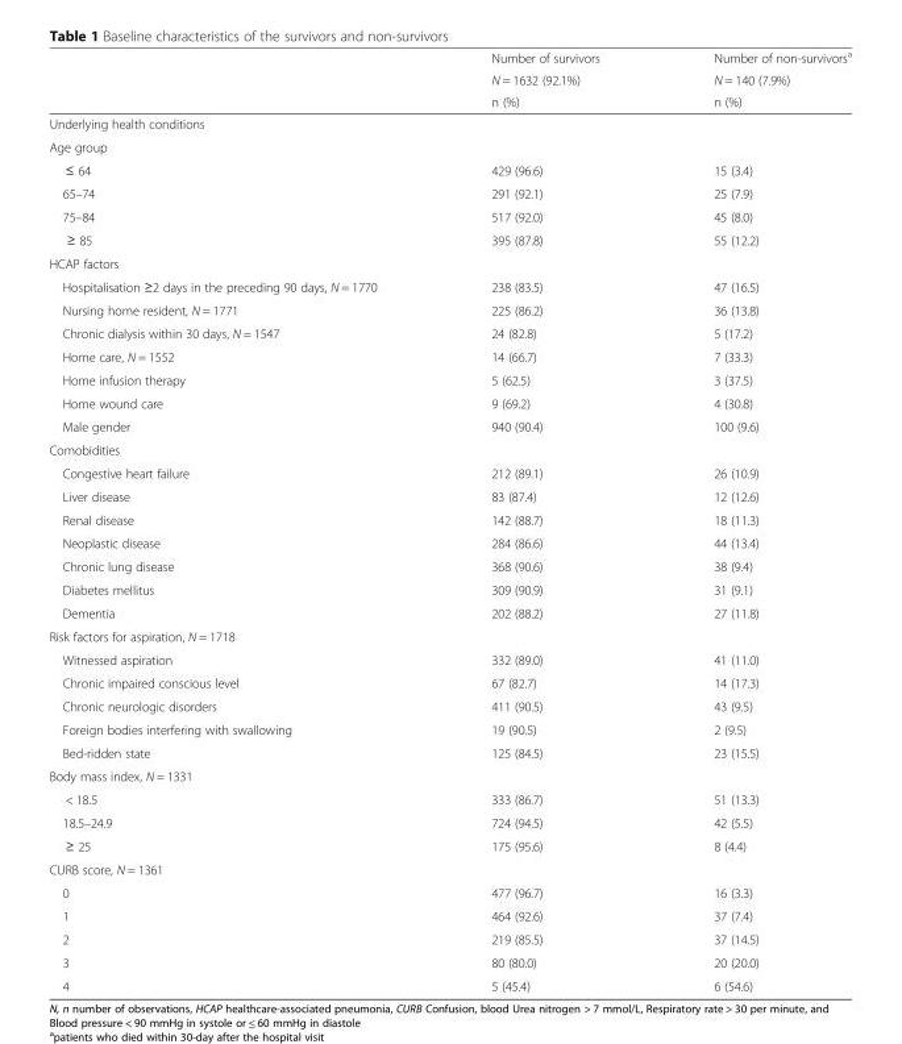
<table><thead><tr><td rowspan="3"></td><td rowspan="3">Number of survivors N = 1632 (92.1%) n (%)</td><td rowspan="3">Number of non-survivors<sup>a</sup> N = 140 (7.9%) n (%)</td></tr><tr></tr><tr></tr></thead><tbody><tr><td colspan="3">Underlying health conditions</td></tr><tr><td colspan="3">Age group</td></tr><tr><td>≤ 64</td><td>429 (96.6)</td><td>15 (3.4)</td></tr><tr><td>65–74</td><td>291 (92.1)</td><td>25 (7.9)</td></tr><tr><td>75–84</td><td>517 (92.0)</td><td>45 (8.0)</td></tr><tr><td>≥ 85</td><td>395 (87.8)</td><td>55 (12.2)</td></tr><tr><td colspan="3">HCAP factors</td></tr><tr><td>Hospitalisation ≥2 days in the preceding 90 days, N = 1770</td><td>238 (83.5)</td><td>47 (16.5)</td></tr><tr><td>Nursing home resident, N = 1771</td><td>225 (86.2)</td><td>36 (13.8)</td></tr><tr><td>Chronic dialysis within 30 days, N = 1547</td><td>24 (82.8)</td><td>5 (17.2)</td></tr><tr><td>Home care, N = 1552</td><td>14 (66.7)</td><td>7 (33.3)</td></tr><tr><td>Home infusion therapy</td><td>5 (62.5)</td><td>3 (37.5)</td></tr><tr><td>Home wound care</td><td>9 (69.2)</td><td>4 (30.8)</td></tr><tr><td>Male gender</td><td>940 (90.4)</td><td>100 (9.6)</td></tr><tr><td colspan="3">Comobidities</td></tr><tr><td>Congestive heart failure</td><td>212 (89.1)</td><td>26 (10.9)</td></tr><tr><td>Liver disease</td><td>83 (87.4)</td><td>12 (12.6)</td></tr><tr><td>Renal disease</td><td>142 (88.7)</td><td>18 (11.3)</td></tr><tr><td>Neoplastic disease</td><td>284 (86.6)</td><td>44 (13.4)</td></tr><tr><td>Chronic lung disease</td><td>368 (90.6)</td><td>38 (9.4)</td></tr><tr><td>Diabetes mellitus</td><td>309 (90.9)</td><td>31 (9.1)</td></tr><tr><td>Dementia</td><td>202 (88.2)</td><td>27 (11.8)</td></tr><tr><td colspan="3">Risk factors for aspiration, N = 1718</td></tr><tr><td>Witnessed aspiration</td><td>332 (89.0)</td><td>41 (11.0)</td></tr><tr><td>Chronic impaired conscious level</td><td>67 (82.7)</td><td>14 (17.3)</td></tr><tr><td>Chronic neurologic disorders</td><td>411 (90.5)</td><td>43 (9.5)</td></tr><tr><td>Foreign bodies interfering with swallowing</td><td>19 (90.5)</td><td>2 (9.5)</td></tr><tr><td>Bed-ridden state</td><td>125 (84.5)</td><td>23 (15.5)</td></tr><tr><td colspan="3">Body mass index, N = 1331</td></tr><tr><td>&lt; 18.5</td><td>333 (86.7)</td><td>51 (13.3)</td></tr><tr><td>18.5–24.9</td><td>724 (94.5)</td><td>42 (5.5)</td></tr><tr><td>≥ 25</td><td>175 (95.6)</td><td>8 (4.4)</td></tr><tr><td colspan="3">CURB score, N = 1361</td></tr><tr><td>0</td><td>477 (96.7)</td><td>16 (3.3)</td></tr><tr><td>1</td><td>464 (92.6)</td><td>37 (7.4)</td></tr><tr><td>2</td><td>219 (85.5)</td><td>37 (14.5)</td></tr><tr><td>3</td><td>80 (80.0)</td><td>20 (20.0)</td></tr><tr><td>4</td><td>5 (45.4)</td><td>6 (54.6)</td></tr></tbody></table>